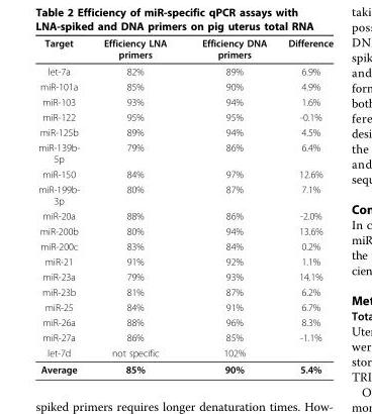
<table><thead><tr><td>Target</td><td>Efficiency LNA primers</td><td>Efficiency DNA primers</td><td>Difference</td></tr></thead><tbody><tr><td>let-7a</td><td>82%</td><td>89%</td><td>6.9%</td></tr><tr><td>miR-101a</td><td>85%</td><td>90%</td><td>4.9%</td></tr><tr><td>miR-103</td><td>93%</td><td>94%</td><td>1.6%</td></tr><tr><td>miR-122</td><td>95%</td><td>95%</td><td>-0.1%</td></tr><tr><td>miR-125b</td><td>89%</td><td>94%</td><td>4.5%</td></tr><tr><td>miR-139b- 5p</td><td>79%</td><td>86%</td><td>6.4%</td></tr><tr><td>miR-150</td><td>84%</td><td>97%</td><td>12.6%</td></tr><tr><td>miR-199b- 3p</td><td>80%</td><td>87%</td><td>7.1%</td></tr><tr><td>miR-20a</td><td>88%</td><td>86%</td><td>-2.0%</td></tr><tr><td>miR-200b</td><td>80%</td><td>94%</td><td>13.6%</td></tr><tr><td>miR-200c</td><td>83%</td><td>84%</td><td>0.2%</td></tr><tr><td>miR-21</td><td>91%</td><td>92%</td><td>1.1%</td></tr><tr><td>miR-23a</td><td>79%</td><td>93%</td><td>14.1%</td></tr><tr><td>miR-23b</td><td>81%</td><td>87%</td><td>6.2%</td></tr><tr><td>miR-25</td><td>84%</td><td>91%</td><td>6.7%</td></tr><tr><td>miR-26a</td><td>88%</td><td>96%</td><td>8.3%</td></tr><tr><td>miR-27a</td><td>86%</td><td>85%</td><td>-1.1%</td></tr><tr><td>let-7d</td><td>not specific</td><td>102%</td><td></td></tr><tr><td>Average</td><td>85%</td><td>90%</td><td>5.4%</td></tr></tbody></table>